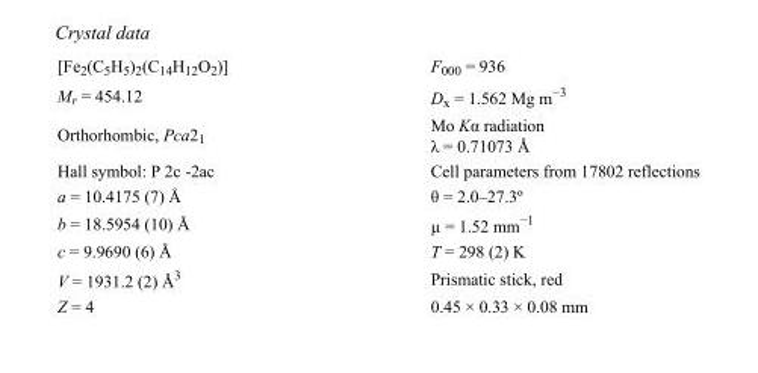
<table><tbody><tr><td>[Fe<sub>2</sub>(C<sub>5</sub>H<sub>5</sub>)<sub>2</sub>(C<sub>14</sub>H<sub>12</sub>O<sub>2</sub>)]</td><td>F<sub>000</sub> = 936</td></tr><tr><td>M<sub>r</sub> = 454.12</td><td>D<sub>x</sub> = 1.562 Mg m<sup>−3</sup></td></tr><tr><td>Orthorhombic, Pca2<sub>1</sub></td><td>Mo Kα radiation λ = 0.71073 Å</td></tr><tr><td>Hall symbol: P 2c -2ac</td><td>Cell parameters from 17802 reflections</td></tr><tr><td>a = 10.4175 (7) Å</td><td>θ = 2.0–27.3º</td></tr><tr><td>b = 18.5954 (10) Å</td><td>µ = 1.52 mm<sup>−1</sup></td></tr><tr><td>c = 9.9690 (6) Å</td><td>T = 298 (2) K</td></tr><tr><td>V = 1931.2 (2) Å<sup>3</sup></td><td>Prismatic stick, red</td></tr><tr><td>Z = 4</td><td>0.45 × 0.33 × 0.08 mm</td></tr></tbody></table>